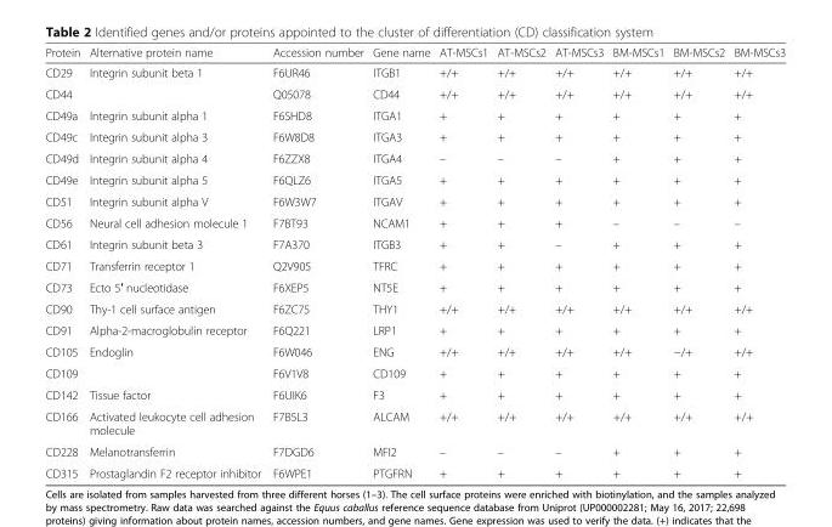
<table><thead><tr><td>Protein</td><td>Alternative protein name</td><td>Accession number</td><td>Gene name</td><td>AT-MSCs1</td><td>AT-MSCs2</td><td>AT-MSCs3</td><td>BM-MSCs1</td><td>BM-MSCs2</td><td>BM-MSCs3</td></tr></thead><tbody><tr><td>CD29</td><td>Integrin subunit beta 1</td><td>F6UR46</td><td>ITGB1</td><td>+/+</td><td>+/+</td><td>+/+</td><td>+/+</td><td>+/+</td><td>+/+</td></tr><tr><td>CD44</td><td></td><td>Q05078</td><td>CD44</td><td>+/+</td><td>+/+</td><td>+/+</td><td>+/+</td><td>+/+</td><td>+/+</td></tr><tr><td>CD49a</td><td>Integrin subunit alpha 1</td><td>F6SHD8</td><td>ITGA1</td><td>+</td><td>+</td><td>+</td><td>+</td><td>+</td><td>+</td></tr><tr><td>CD49c</td><td>Integrin subunit alpha 3</td><td>F6W8D8</td><td>ITGA3</td><td>+</td><td>+</td><td>+</td><td>+</td><td>+</td><td>+</td></tr><tr><td>CD49d</td><td>Integrin subunit alpha 4</td><td>F6ZZX8</td><td>ITGA4</td><td>–</td><td>–</td><td>–</td><td>+</td><td>+</td><td>+</td></tr><tr><td>CD49e</td><td>Integrin subunit alpha 5</td><td>F6QLZ6</td><td>ITGA5</td><td>+</td><td>+</td><td>+</td><td>+</td><td>+</td><td>+</td></tr><tr><td>CD51</td><td>Integrin subunit alpha V</td><td>F6W3W7</td><td>ITGAV</td><td>+</td><td>+</td><td>+</td><td>+</td><td>+</td><td>+</td></tr><tr><td>CD56</td><td>Neural cell adhesion molecule 1</td><td>F7BT93</td><td>NCAM1</td><td>+</td><td>+</td><td>+</td><td>–</td><td>–</td><td>–</td></tr><tr><td>CD61</td><td>Integrin subunit beta 3</td><td>F7A370</td><td>ITGB3</td><td>+</td><td>+</td><td>–</td><td>+</td><td>+</td><td>+</td></tr><tr><td>CD71</td><td>Transferrin receptor 1</td><td>Q2V905</td><td>TFRC</td><td>+</td><td>+</td><td>+</td><td>+</td><td>+</td><td>+</td></tr><tr><td>CD73</td><td>Ecto 5′ nucleotidase</td><td>F6XEP5</td><td>NT5E</td><td>+</td><td>+</td><td>+</td><td>+</td><td>+</td><td>+</td></tr><tr><td>CD90</td><td>Thy-1 cell surface antigen</td><td>F6ZC75</td><td>THY1</td><td>+/+</td><td>+/+</td><td>+/+</td><td>+/+</td><td>+/+</td><td>+/+</td></tr><tr><td>CD91</td><td>Alpha-2-macroglobulin receptor</td><td>F6Q221</td><td>LRP1</td><td>+</td><td>+</td><td>+</td><td>+</td><td>+</td><td>+</td></tr><tr><td>CD105</td><td>Endoglin</td><td>F6W046</td><td>ENG</td><td>+/+</td><td>+/+</td><td>+/+</td><td>+/+</td><td>−/+</td><td>+/+</td></tr><tr><td>CD109</td><td></td><td>F6V1V8</td><td>CD109</td><td>+</td><td>+</td><td>+</td><td>+</td><td>+</td><td>+</td></tr><tr><td>CD142</td><td>Tissue factor</td><td>F6UIK6</td><td>F3</td><td>+</td><td>+</td><td>+</td><td>+</td><td>+</td><td>+</td></tr><tr><td>CD166</td><td>Activated leukocyte cell adhesion molecule</td><td>F7B5L3</td><td>ALCAM</td><td>+/+</td><td>+/+</td><td>+/+</td><td>+/+</td><td>+/+</td><td>+/+</td></tr><tr><td>CD228</td><td>Melanotransferrin</td><td>F7DGD6</td><td>MFI2</td><td>–</td><td>–</td><td>–</td><td>+</td><td>+</td><td>+</td></tr><tr><td>CD315</td><td>Prostaglandin F2 receptor inhibitor</td><td>F6WPE1</td><td>PTGFRN</td><td>+</td><td>+</td><td>+</td><td>+</td><td>+</td><td>+</td></tr></tbody></table>